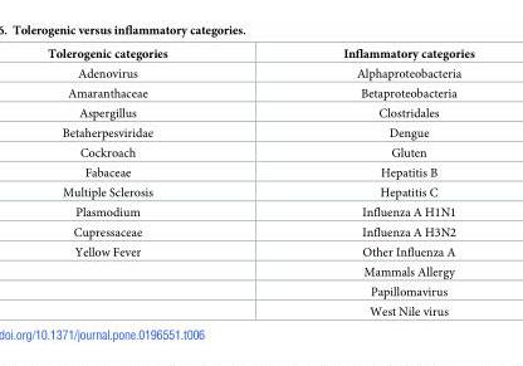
<table><thead><tr><td>Tolerogenic categories</td><td>Inflammatory categories</td></tr></thead><tbody><tr><td>Adenovirus</td><td>Alphaproteobacteria</td></tr><tr><td>Amaranthaceae</td><td>Betaproteobacteria</td></tr><tr><td>Aspergillus</td><td>Clostridales</td></tr><tr><td>Betaherpesviridae</td><td>Dengue</td></tr><tr><td>Cockroach</td><td>Gluten</td></tr><tr><td>Fabaceae</td><td>Hepatitis B</td></tr><tr><td>Multiple Sclerosis</td><td>Hepatitis C</td></tr><tr><td>Plasmodium</td><td>Influenza A H1N1</td></tr><tr><td>Cupressaceae</td><td>Influenza A H3N2</td></tr><tr><td rowspan="4">Yellow Fever</td><td>Other Influenza A</td></tr><tr><td>Mammals Allergy</td></tr><tr><td>Papillomavirus</td></tr><tr><td>West Nile virus</td></tr></tbody></table>